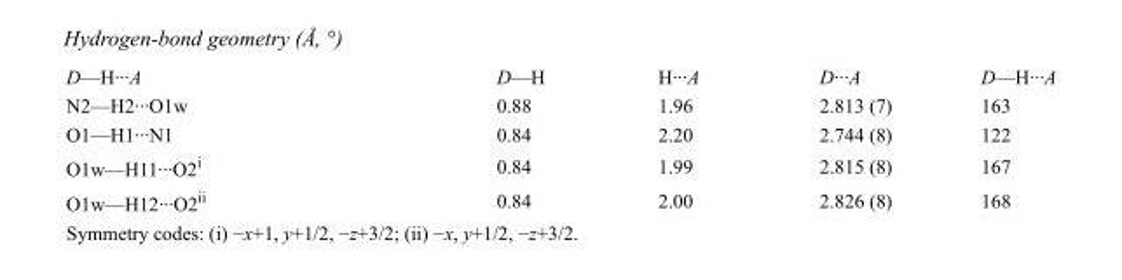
<table><tbody><tr><td>D—H···A</td><td>D—H</td><td>H···A</td><td>D···A</td><td>D—H···A</td></tr><tr><td>N2—H2···O1w</td><td>0.88</td><td>1.96</td><td>2.813 (7)</td><td>163</td></tr><tr><td>O1—H1···N1</td><td>0.84</td><td>2.20</td><td>2.744 (8)</td><td>122</td></tr><tr><td>O1w—H11···O2<sup>i</sup></td><td>0.84</td><td>1.99</td><td>2.815 (8)</td><td>167</td></tr><tr><td>O1w—H12···O2<sup>ii</sup></td><td>0.84</td><td>2.00</td><td>2.826 (8)</td><td>168</td></tr></tbody></table>